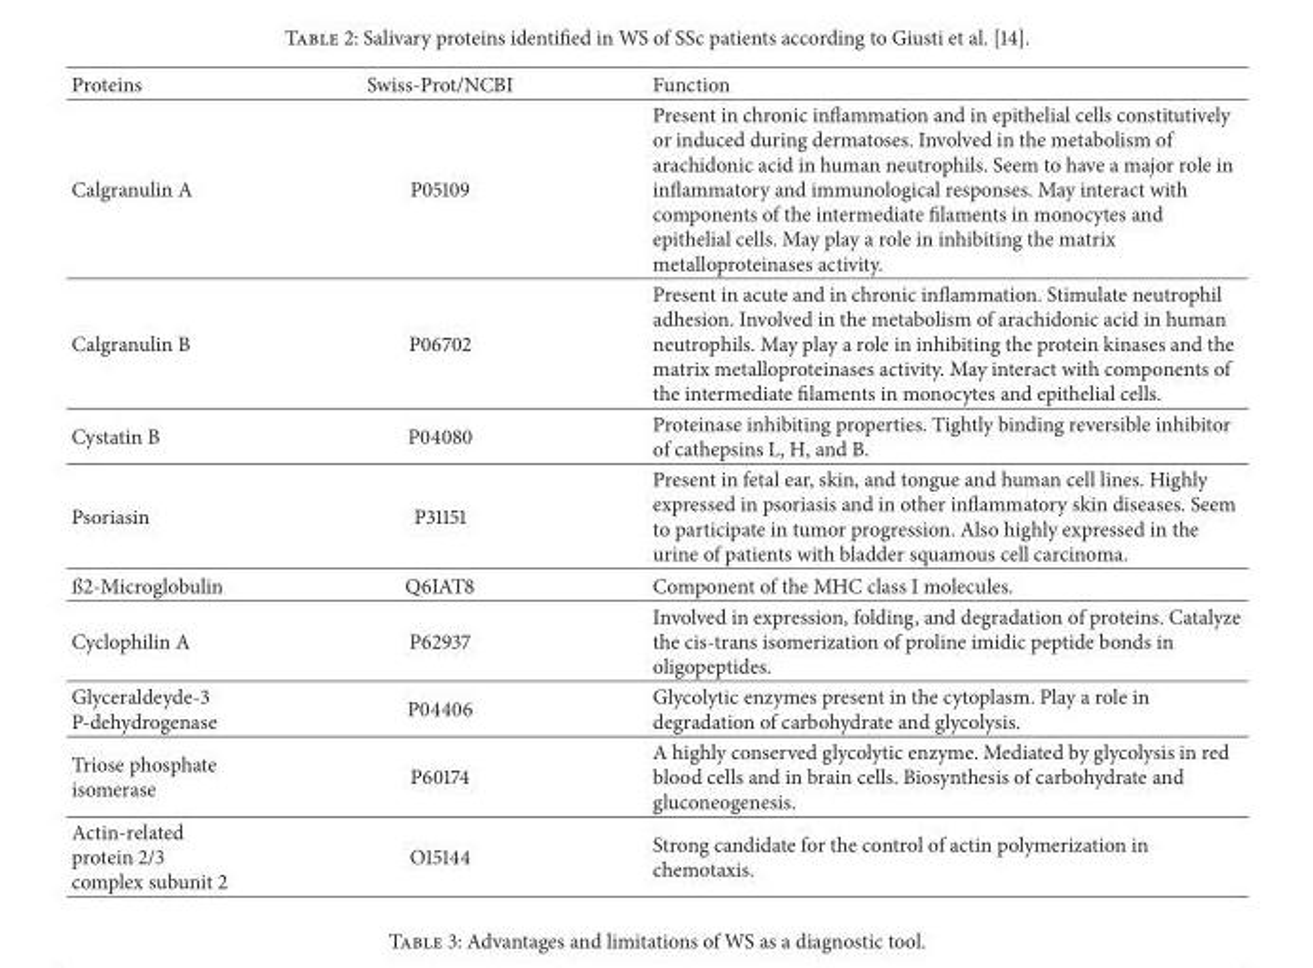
<table><thead><tr><td>Proteins</td><td>Swiss-Prot/NCBI</td><td>Function</td></tr></thead><tbody><tr><td>Calgranulin A</td><td>P05109</td><td>Present in chronic inflammation and in epithelial cells constitutively or induced during dermatoses. Involved in the metabolism of arachidonic acid in human neutrophils. Seem to have a major role in inflammatory and immunological responses. May interact with components of the intermediate filaments in monocytes and epithelial cells. May play a role in inhibiting the matrix metalloproteinases activity.</td></tr><tr><td>Calgranulin B</td><td>P06702</td><td>Present in acute and in chronic inflammation. Stimulate neutrophil adhesion. Involved in the metabolism of arachidonic acid in human neutrophils. May play a role in inhibiting the protein kinases and the matrix metalloproteinases activity. May interact with components of the intermediate filaments in monocytes and epithelial cells.</td></tr><tr><td>Cystatin B</td><td>P04080</td><td>Proteinase inhibiting properties. Tightly binding reversible inhibitor of cathepsins L, H, and B.</td></tr><tr><td>Psoriasin</td><td>P31151</td><td>Present in fetal ear, skin, and tongue and human cell lines. Highly expressed in psoriasis and in other inflammatory skin diseases. Seem to participate in tumor progression. Also highly expressed in the urine of patients with bladder squamous cell carcinoma.</td></tr><tr><td>ß2-Microglobulin</td><td>Q6IAT8</td><td>Component of the MHC class I molecules.</td></tr><tr><td>Cyclophilin A</td><td>P62937</td><td>Involved in expression, folding, and degradation of proteins. Catalyze the cis-trans isomerization of proline imidic peptide bonds in oligopeptides.</td></tr><tr><td>Glyceraldeyde-3 P-dehydrogenase</td><td>P04406</td><td>Glycolytic enzymes present in the cytoplasm. Play a role in degradation of carbohydrate and glycolysis.</td></tr><tr><td>Triose phosphate isomerase</td><td>P60174</td><td>A highly conserved glycolytic enzyme. Mediated by glycolysis in red blood cells and in brain cells. Biosynthesis of carbohydrate and gluconeogenesis.</td></tr><tr><td>Actin-related protein 2/3 complex subunit 2</td><td>O15144</td><td>Strong candidate for the control of actin polymerization in chemotaxis.</td></tr></tbody></table>